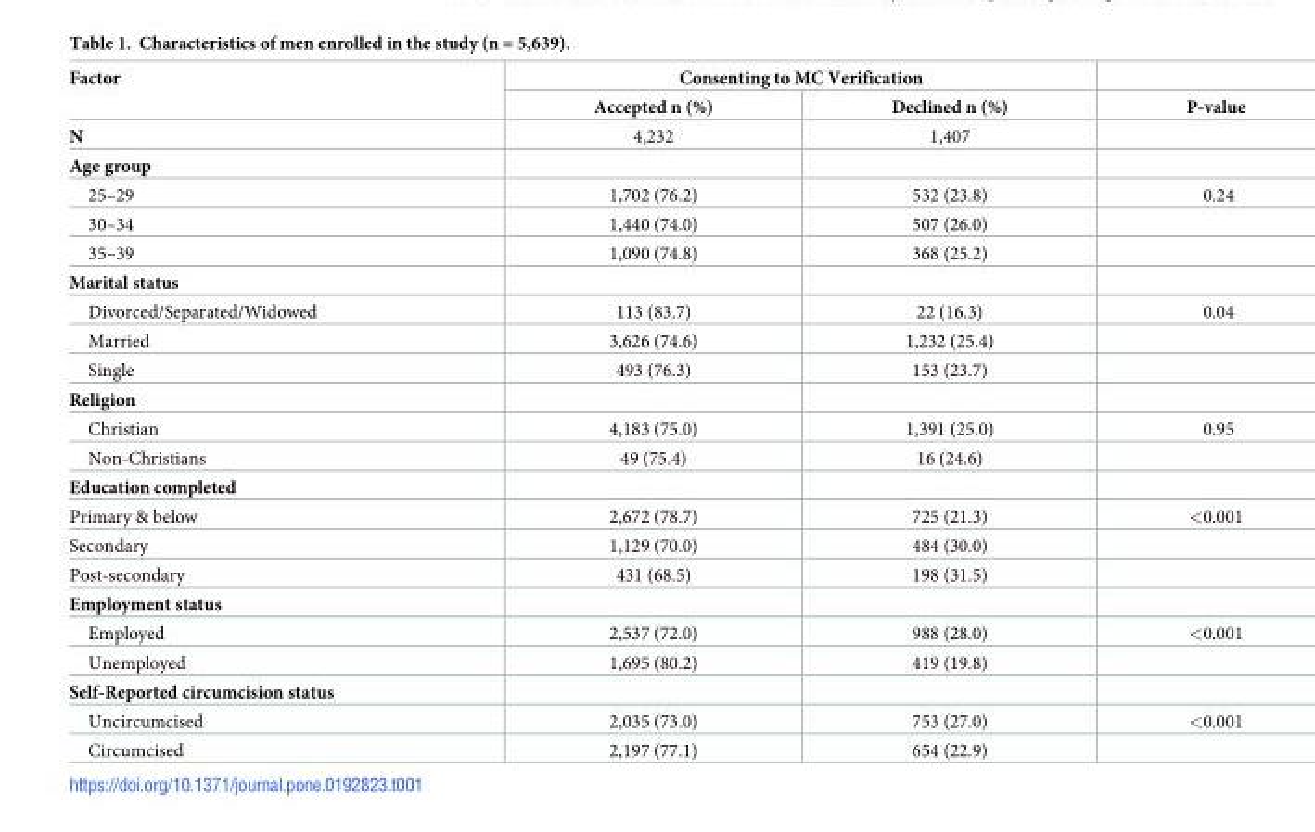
<table><thead><tr><td rowspan="2">Factor</td><td colspan="2">Consenting to MC Verification</td><td rowspan="2">P-value</td></tr><tr><td>Accepted n (%)</td><td>Declined n (%)</td></tr></thead><tbody><tr><td>N</td><td>4,232</td><td>1,407</td><td></td></tr><tr><td colspan="4">Age group</td></tr><tr><td>25–29</td><td>1,702 (76.2)</td><td>532 (23.8)</td><td>0.24</td></tr><tr><td>30–34</td><td>1,440 (74.0)</td><td>507 (26.0)</td><td></td></tr><tr><td>35–39</td><td>1,090 (74.8)</td><td>368 (25.2)</td><td></td></tr><tr><td colspan="4">Marital status</td></tr><tr><td>Divorced/Separated/Widowed</td><td>113 (83.7)</td><td>22 (16.3)</td><td>0.04</td></tr><tr><td>Married</td><td>3,626 (74.6)</td><td>1,232 (25.4)</td><td></td></tr><tr><td>Single</td><td>493 (76.3)</td><td>153 (23.7)</td><td></td></tr><tr><td colspan="4">Religion</td></tr><tr><td>Christian</td><td>4,183 (75.0)</td><td>1,391 (25.0)</td><td>0.95</td></tr><tr><td>Non-Christians</td><td>49 (75.4)</td><td>16 (24.6)</td><td></td></tr><tr><td colspan="4">Education completed</td></tr><tr><td>Primary &amp; below</td><td>2,672 (78.7)</td><td>725 (21.3)</td><td>&lt;0.001</td></tr><tr><td>Secondary</td><td>1,129 (70.0)</td><td>484 (30.0)</td><td></td></tr><tr><td>Post-secondary</td><td>431 (68.5)</td><td>198 (31.5)</td><td></td></tr><tr><td colspan="4">Employment status</td></tr><tr><td>Employed</td><td>2,537 (72.0)</td><td>988 (28.0)</td><td>&lt;0.001</td></tr><tr><td>Unemployed</td><td>1,695 (80.2)</td><td>419 (19.8)</td><td></td></tr><tr><td colspan="4">Self-Reported circumcision status</td></tr><tr><td>Uncircumcised</td><td>2,035 (73.0)</td><td>753 (27.0)</td><td>&lt;0.001</td></tr><tr><td>Circumcised</td><td>2,197 (77.1)</td><td>654 (22.9)</td><td></td></tr></tbody></table>